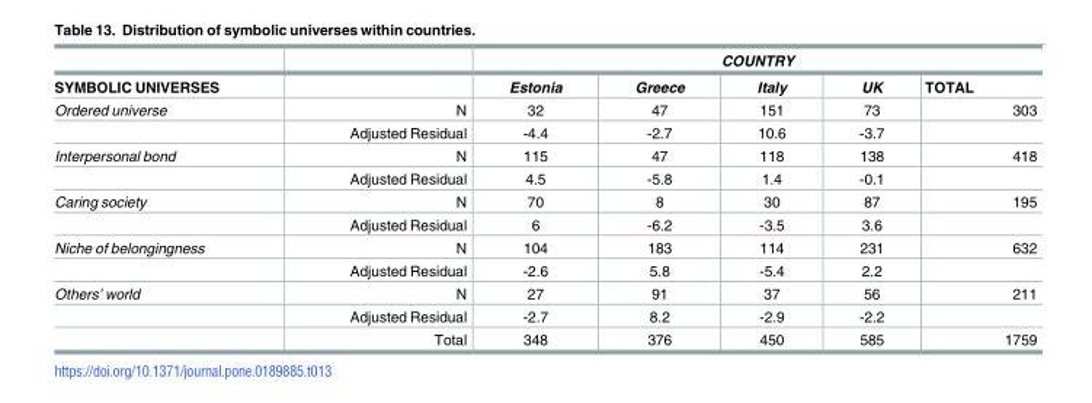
<table><thead><tr><td rowspan="2">SYMBOLIC UNIVERSES</td><td rowspan="2"></td><td colspan="5">COUNTRY</td></tr><tr><td>Estonia</td><td>Greece</td><td>Italy</td><td>UK</td><td>TOTAL</td></tr></thead><tbody><tr><td rowspan="2">Ordered universe</td><td>N</td><td>32</td><td>47</td><td>151</td><td>73</td><td>303</td></tr><tr><td>Adjusted Residual</td><td>-4.4</td><td>-2.7</td><td>10.6</td><td>-3.7</td><td></td></tr><tr><td rowspan="2">Interpersonal bond</td><td>N</td><td>115</td><td>47</td><td>118</td><td>138</td><td>418</td></tr><tr><td>Adjusted Residual</td><td>4.5</td><td>-5.8</td><td>1.4</td><td>-0.1</td><td></td></tr><tr><td rowspan="2">Caring society</td><td>N</td><td>70</td><td>8</td><td>30</td><td>87</td><td>195</td></tr><tr><td>Adjusted Residual</td><td>6</td><td>-6.2</td><td>-3.5</td><td>3.6</td><td></td></tr><tr><td rowspan="2">Niche of belongingness</td><td>N</td><td>104</td><td>183</td><td>114</td><td>231</td><td>632</td></tr><tr><td>Adjusted Residual</td><td>-2.6</td><td>5.8</td><td>-5.4</td><td>2.2</td><td></td></tr><tr><td rowspan="3">Others’ world</td><td>N</td><td>27</td><td>91</td><td>37</td><td>56</td><td>211</td></tr><tr><td>Adjusted Residual</td><td>-2.7</td><td>8.2</td><td>-2.9</td><td>-2.2</td><td></td></tr><tr><td>Total</td><td>348</td><td>376</td><td>450</td><td>585</td><td>1759</td></tr></tbody></table>